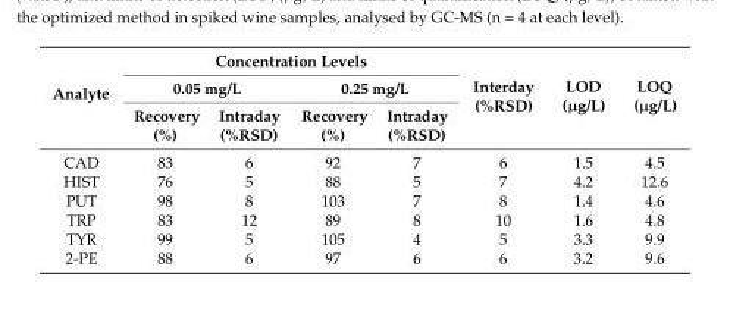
<table><thead><tr><td rowspan="3">Analyte</td><td colspan="4">Concentration Levels</td><td rowspan="3">Interday (%RSD)</td><td rowspan="3">LOD (µg/L)</td><td rowspan="3">LOQ (µg/L)</td></tr><tr><td colspan="2">0.05 mg/L</td><td colspan="2">0.25 mg/L</td></tr><tr><td>Recovery (%)</td><td>Intraday (%RSD)</td><td>Recovery (%)</td><td>Intraday (%RSD)</td></tr></thead><tbody><tr><td>CAD</td><td>83</td><td>6</td><td>92</td><td>7</td><td>6</td><td>1.5</td><td>4.5</td></tr><tr><td>HIST</td><td>76</td><td>5</td><td>88</td><td>5</td><td>7</td><td>4.2</td><td>12.6</td></tr><tr><td>PUT</td><td>98</td><td>8</td><td>103</td><td>7</td><td>8</td><td>1.4</td><td>4.6</td></tr><tr><td>TRP</td><td>83</td><td>12</td><td>89</td><td>8</td><td>10</td><td>1.6</td><td>4.8</td></tr><tr><td>TYR</td><td>99</td><td>5</td><td>105</td><td>4</td><td>5</td><td>3.3</td><td>9.9</td></tr><tr><td>2-PE</td><td>88</td><td>6</td><td>97</td><td>6</td><td>6</td><td>3.2</td><td>9.6</td></tr></tbody></table>